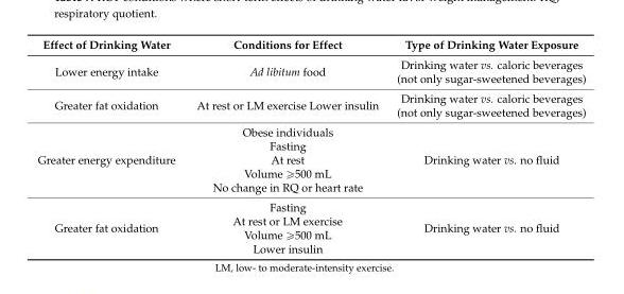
<table><thead><tr><td>Effect of Drinking Water</td><td>Conditions for Effect</td><td>Type of Drinking Water Exposure</td></tr></thead><tbody><tr><td>Lower energy intake</td><td>Ad libitum food</td><td>Drinking water vs. caloric beverages (not only sugar-sweetened beverages)</td></tr><tr><td>Greater fat oxidation</td><td>At rest or LM exercise Lower insulin</td><td>Drinking water vs. caloric beverages (not only sugar-sweetened beverages)</td></tr><tr><td>Greater energy expenditure</td><td>Obese individuals Fasting At rest Volume ě500 mL No change in RQ or heart rate</td><td>Drinking water vs. no fluid</td></tr><tr><td>Greater fat oxidation</td><td>Fasting At rest or LM exercise Volume ě500 mL Lower insulin</td><td>Drinking water vs. no fluid</td></tr></tbody></table>